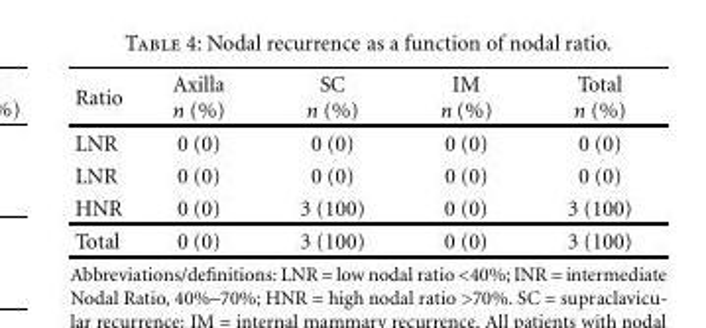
<table><thead><tr><td>Ratio</td><td>Axilla n (%)</td><td>SC n (%)</td><td>IM n (%)</td><td>Total n (%)</td></tr></thead><tbody><tr><td>LNR</td><td>0 (0)</td><td>0 (0)</td><td>0 (0)</td><td>0 (0)</td></tr><tr><td>LNR</td><td>0 (0)</td><td>0 (0)</td><td>0 (0)</td><td>0 (0)</td></tr><tr><td>HNR</td><td>0 (0)</td><td>3 (100)</td><td>0 (0)</td><td>3 (100)</td></tr><tr><td>Total</td><td>0 (0)</td><td>3 (100)</td><td>0 (0)</td><td>3 (100)</td></tr></tbody></table>